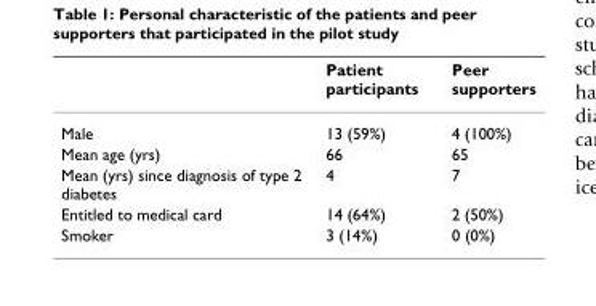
<table><thead><tr><td></td><td>Patient participants</td><td>Peer supporters</td></tr></thead><tbody><tr><td>Male</td><td>13 (59%)</td><td>4 (100%)</td></tr><tr><td>Mean age (yrs)</td><td>66</td><td>65</td></tr><tr><td>Mean (yrs) since diagnosis of type 2 diabetes</td><td>4</td><td>7</td></tr><tr><td>Entitled to medical card</td><td>14 (64%)</td><td>2 (50%)</td></tr><tr><td>Smoker</td><td>3 (14%)</td><td>0 (0%)</td></tr></tbody></table>